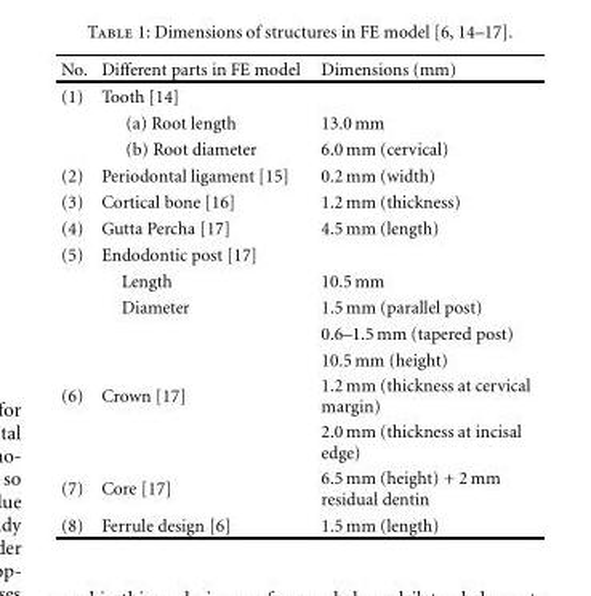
<table><thead><tr><td>No.</td><td>Different parts in FE model</td><td>Dimensions (mm)</td></tr></thead><tbody><tr><td rowspan="3">(1)</td><td>Tooth [14]</td><td></td></tr><tr><td>(a) Root length</td><td>13.0 mm</td></tr><tr><td>(b) Root diameter</td><td>6.0 mm (cervical)</td></tr><tr><td>(2)</td><td>Periodontal ligament [15]</td><td>0.2 mm (width)</td></tr><tr><td>(3)</td><td>Cortical bone [16]</td><td>1.2 mm (thickness)</td></tr><tr><td>(4)</td><td>Gutta Percha [17]</td><td>4.5 mm (length)</td></tr><tr><td rowspan="5">(5)</td><td>Endodontic post [17]</td><td></td></tr><tr><td>Length</td><td>10.5 mm</td></tr><tr><td>Diameter</td><td>1.5 mm (parallel post)</td></tr><tr><td></td><td>0.6–1.5 mm (tapered post)</td></tr><tr><td></td><td>10.5 mm (height)</td></tr><tr><td rowspan="2">(6)</td><td>Crown [17]</td><td>1.2 mm (thickness at cervical margin)</td></tr><tr><td></td><td>2.0 mm (thickness at incisal edge)</td></tr><tr><td>(7)</td><td>Core [17]</td><td>6.5 mm (height) + 2 mm residual dentin</td></tr><tr><td>(8)</td><td>Ferrule design [6]</td><td>1.5 mm (length)</td></tr></tbody></table>